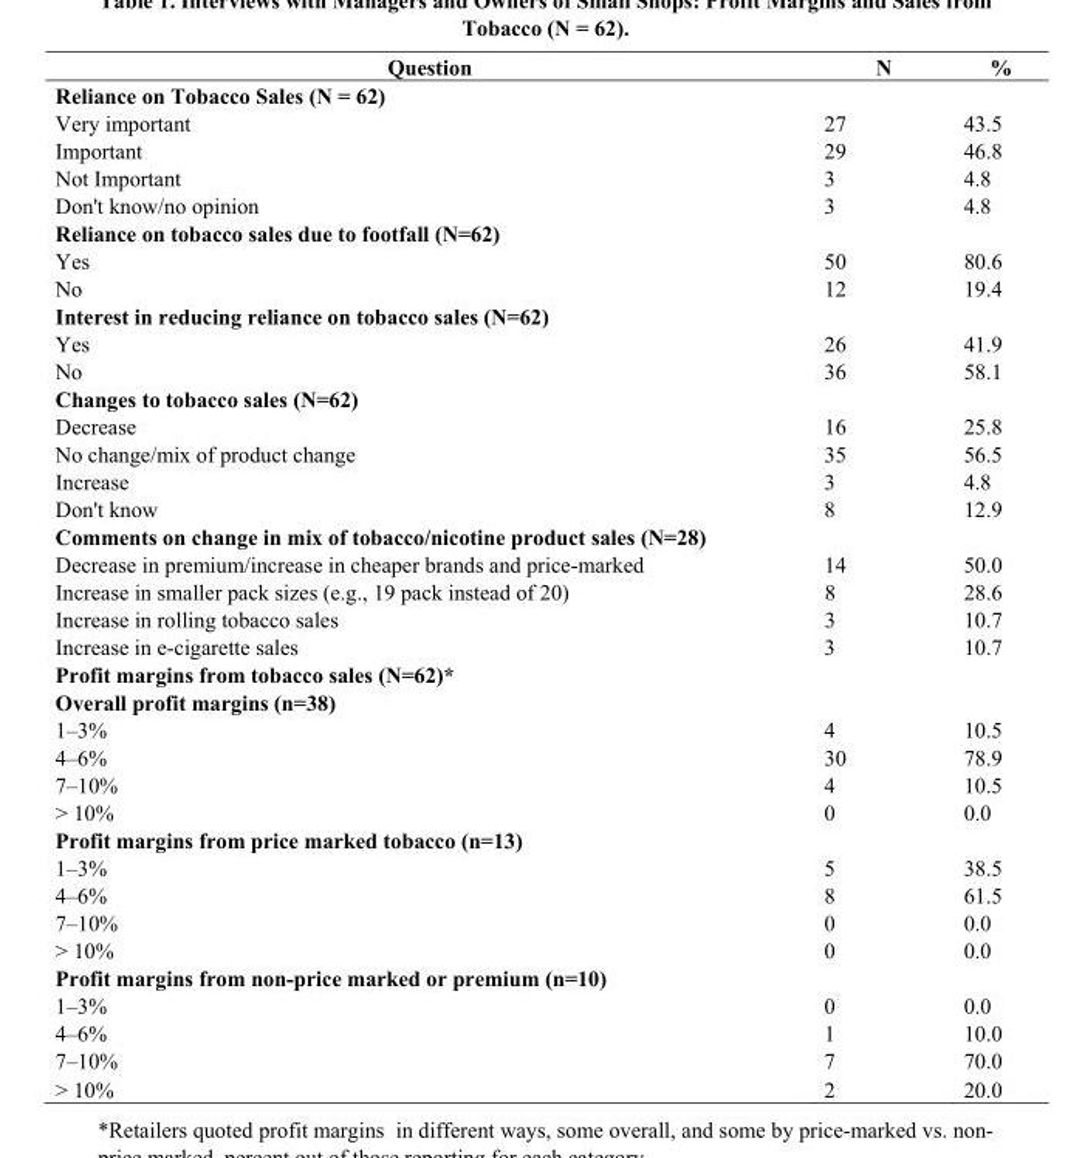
<table><thead><tr><td>Question</td><td>N</td><td>%</td></tr></thead><tbody><tr><td colspan="3">Reliance on Tobacco Sales (N = 62)</td></tr><tr><td>Very important</td><td>27</td><td>43.5</td></tr><tr><td>Important</td><td>29</td><td>46.8</td></tr><tr><td>Not Important</td><td>3</td><td>4.8</td></tr><tr><td>Don&#x27;t know/no opinion</td><td>3</td><td>4.8</td></tr><tr><td colspan="3">Reliance on tobacco sales due to footfall (N=62)</td></tr><tr><td>Yes</td><td>50</td><td>80.6</td></tr><tr><td>No</td><td>12</td><td>19.4</td></tr><tr><td colspan="3">Interest in reducing reliance on tobacco sales (N=62)</td></tr><tr><td>Yes</td><td>26</td><td>41.9</td></tr><tr><td>No</td><td>36</td><td>58.1</td></tr><tr><td colspan="3">Changes to tobacco sales (N=62)</td></tr><tr><td>Decrease</td><td>16</td><td>25.8</td></tr><tr><td>No change/mix of product change</td><td>35</td><td>56.5</td></tr><tr><td>Increase</td><td>3</td><td>4.8</td></tr><tr><td>Don&#x27;t know</td><td>8</td><td>12.9</td></tr><tr><td colspan="3">Comments on change in mix of tobacco/nicotine product sales (N=28)</td></tr><tr><td>Decrease in premium/increase in cheaper brands and price-marked</td><td>14</td><td>50.0</td></tr><tr><td>Increase in smaller pack sizes (e.g., 19 pack instead of 20)</td><td>8</td><td>28.6</td></tr><tr><td>Increase in rolling tobacco sales</td><td>3</td><td>10.7</td></tr><tr><td>Increase in e-cigarette sales</td><td>3</td><td>10.7</td></tr><tr><td colspan="3">Profit margins from tobacco sales (N=62)*</td></tr><tr><td colspan="3">Overall profit margins (n=38)</td></tr><tr><td>1–3%</td><td>4</td><td>10.5</td></tr><tr><td>4–6%</td><td>30</td><td>78.9</td></tr><tr><td>7–10%</td><td>4</td><td>10.5</td></tr><tr><td>&gt; 10%</td><td>0</td><td>0.0</td></tr><tr><td colspan="3">Profit margins from price marked tobacco (n=13)</td></tr><tr><td>1–3%</td><td>5</td><td>38.5</td></tr><tr><td>4–6%</td><td>8</td><td>61.5</td></tr><tr><td>7–10%</td><td>0</td><td>0.0</td></tr><tr><td>&gt; 10%</td><td>0</td><td>0.0</td></tr><tr><td colspan="3">Profit margins from non-price marked or premium (n=10)</td></tr><tr><td>1–3%</td><td>0</td><td>0.0</td></tr><tr><td>4–6%</td><td>1</td><td>10.0</td></tr><tr><td>7–10%</td><td>7</td><td>70.0</td></tr><tr><td>&gt; 10%</td><td>2</td><td>20.0</td></tr></tbody></table>